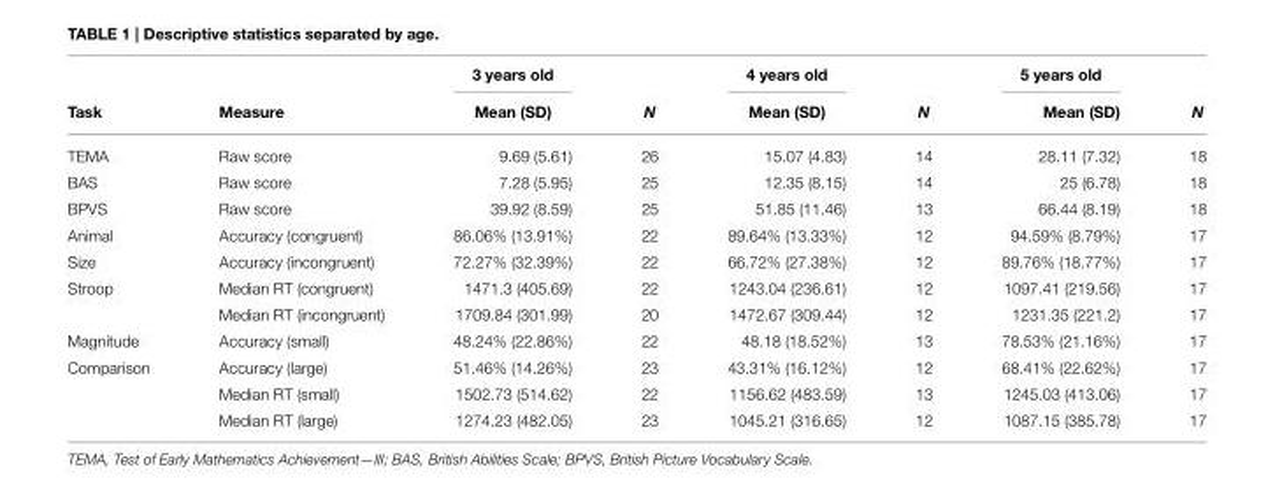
<table><thead><tr><td rowspan="2">Task</td><td rowspan="2">Measure</td><td rowspan="2">3 years old Mean (SD)</td><td rowspan="2">N</td><td rowspan="2">4 years old Mean (SD)</td><td rowspan="2">N</td><td rowspan="2">5 years old Mean (SD)</td><td rowspan="2">N</td></tr><tr></tr></thead><tbody><tr><td>TEMA</td><td>Raw score</td><td>9.69 (5.61)</td><td>26</td><td>15.07 (4.83)</td><td>14</td><td>28.11 (7.32)</td><td>18</td></tr><tr><td>BAS</td><td>Raw score</td><td>7.28 (5.95)</td><td>25</td><td>12.35 (8.15)</td><td>14</td><td>25 (6.78)</td><td>18</td></tr><tr><td>BPVS</td><td>Raw score</td><td>39.92 (8.59)</td><td>25</td><td>51.85 (11.46)</td><td>13</td><td>66.44 (8.19)</td><td>18</td></tr><tr><td>Animal</td><td>Accuracy (congruent)</td><td>86.06% (13.91%)</td><td>22</td><td>89.64% (13.33%)</td><td>12</td><td>94.59% (8.79%)</td><td>17</td></tr><tr><td>Size</td><td>Accuracy (incongruent)</td><td>72.27% (32.39%)</td><td>22</td><td>66.72% (27.38%)</td><td>12</td><td>89.76% (18.77%)</td><td>17</td></tr><tr><td rowspan="2">Stroop</td><td>Median RT (congruent)</td><td>1471.3 (405.69)</td><td>22</td><td>1243.04 (236.61)</td><td>12</td><td>1097.41 (219.56)</td><td>17</td></tr><tr><td>Median RT (incongruent)</td><td>1709.84 (301.99)</td><td>20</td><td>1472.67 (309.44)</td><td>12</td><td>1231.35 (221.2)</td><td>17</td></tr><tr><td>Magnitude</td><td>Accuracy (small)</td><td>48.24% (22.86%)</td><td>22</td><td>48.18 (18.52%)</td><td>13</td><td>78.53% (21.16%)</td><td>17</td></tr><tr><td rowspan="3">Comparison</td><td>Accuracy (large)</td><td>51.46% (14.26%)</td><td>23</td><td>43.31% (16.12%)</td><td>12</td><td>68.41% (22.62%)</td><td>17</td></tr><tr><td>Median RT (small)</td><td>1502.73 (514.62)</td><td>22</td><td>1156.62 (483.59)</td><td>13</td><td>1245.03 (413.06)</td><td>17</td></tr><tr><td>Median RT (large)</td><td>1274.23 (482.05)</td><td>23</td><td>1045.21 (316.65)</td><td>12</td><td>1087.15 (385.78)</td><td>17</td></tr></tbody></table>